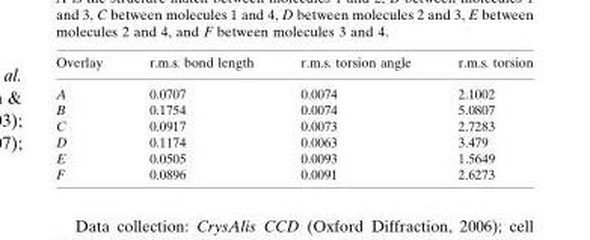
<table><thead><tr><td>Overlay</td><td>r.m.s. bond length</td><td>r.m.s. torsion angle</td><td>r.m.s. torsion</td></tr></thead><tbody><tr><td>A</td><td>0.0707</td><td>0.0074</td><td>2.1002</td></tr><tr><td>B</td><td>0.1754</td><td>0.0074</td><td>5.0807</td></tr><tr><td>C</td><td>0.0917</td><td>0.0073</td><td>2.7283</td></tr><tr><td>D</td><td>0.1174</td><td>0.0063</td><td>3.479</td></tr><tr><td>E</td><td>0.0505</td><td>0.0093</td><td>1.5649</td></tr><tr><td>F</td><td>0.0896</td><td>0.0091</td><td>2.6273</td></tr></tbody></table>